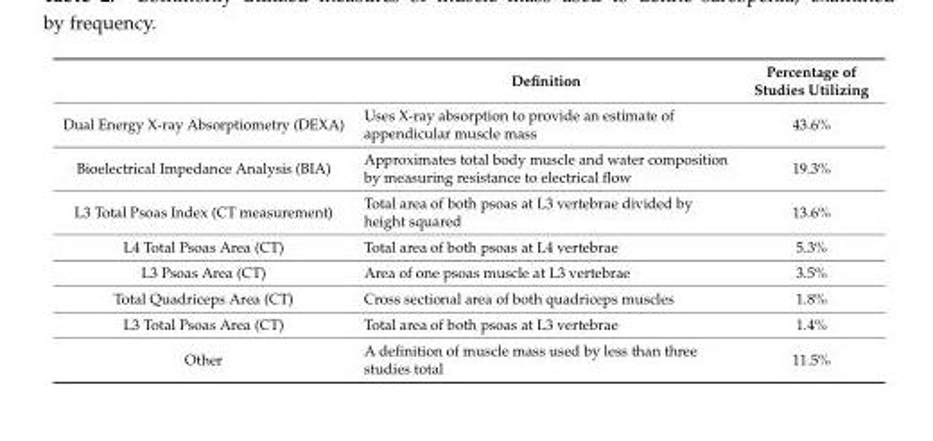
<table><thead><tr><td></td><td>Definition</td><td>Percentage of Studies Utilizing</td></tr></thead><tbody><tr><td>Dual Energy X-ray Absorptiometry (DEXA)</td><td>Uses X-ray absorption to provide an estimate of appendicular muscle mass</td><td>43.6%</td></tr><tr><td>Bioelectrical Impedance Analysis (BIA)</td><td>Approximates total body muscle and water composition by measuring resistance to electrical flow</td><td>19.3%</td></tr><tr><td>L3 Total Psoas Index (CT measurement)</td><td>Total area of both psoas at L3 vertebrae divided by height squared</td><td>13.6%</td></tr><tr><td>L4 Total Psoas Area (CT)</td><td>Total area of both psoas at L4 vertebrae</td><td>5.3%</td></tr><tr><td>L3 Psoas Area (CT)</td><td>Area of one psoas muscle at L3 vertebrae</td><td>3.5%</td></tr><tr><td>Total Quadriceps Area (CT)</td><td>Cross sectional area of both quadriceps muscles</td><td>1.8%</td></tr><tr><td>L3 Total Psoas Area (CT)</td><td>Total area of both psoas at L3 vertebrae</td><td>1.4%</td></tr><tr><td>Other</td><td>A definition of muscle mass used by less than three studies total</td><td>11.5%</td></tr></tbody></table>